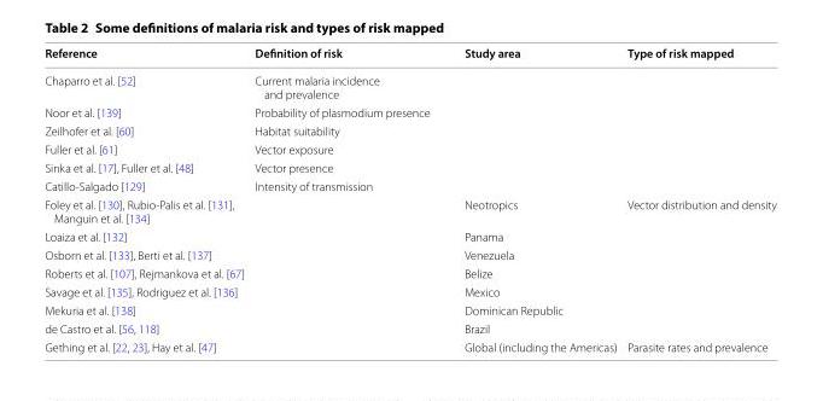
<table><thead><tr><td>Reference</td><td>Definition of risk</td><td>Study area</td><td>Type of risk mapped</td></tr></thead><tbody><tr><td>Chaparro et al. [52]</td><td>Current malaria incidence and prevalence</td><td></td><td></td></tr><tr><td>Noor et al. [139]</td><td>Probability of plasmodium presence</td><td></td><td></td></tr><tr><td>Zeilhofer et al. [60]</td><td>Habitat suitability</td><td></td><td></td></tr><tr><td>Fuller et al. [61]</td><td>Vector exposure</td><td></td><td></td></tr><tr><td>Sinka et al. [17], Fuller et al. [48]</td><td>Vector presence</td><td></td><td></td></tr><tr><td>Catillo‑Salgado [129]</td><td>Intensity of transmission</td><td></td><td></td></tr><tr><td>Foley et al. [130], Rubio‑Palis et al. [131], Manguin et al. [134]</td><td></td><td>Neotropics</td><td rowspan="7">Vector distribution and density</td></tr><tr><td>Loaiza et al. [132]</td><td></td><td>Panama</td></tr><tr><td>Osborn et al. [133], Berti et al. [137]</td><td></td><td>Venezuela</td></tr><tr><td>Roberts et al. [107], Rejmankova et al. [67]</td><td></td><td>Belize</td></tr><tr><td>Savage et al. [135], Rodriguez et al. [136]</td><td></td><td>Mexico</td></tr><tr><td>Mekuria et al. [138]</td><td></td><td>Dominican Republic</td></tr><tr><td>de Castro et al. [56, 118]</td><td></td><td>Brazil</td></tr><tr><td>Gething et al. [22, 23], Hay et al. [47]</td><td></td><td>Global (including the Americas)</td><td>Parasite rates and prevalence</td></tr></tbody></table>